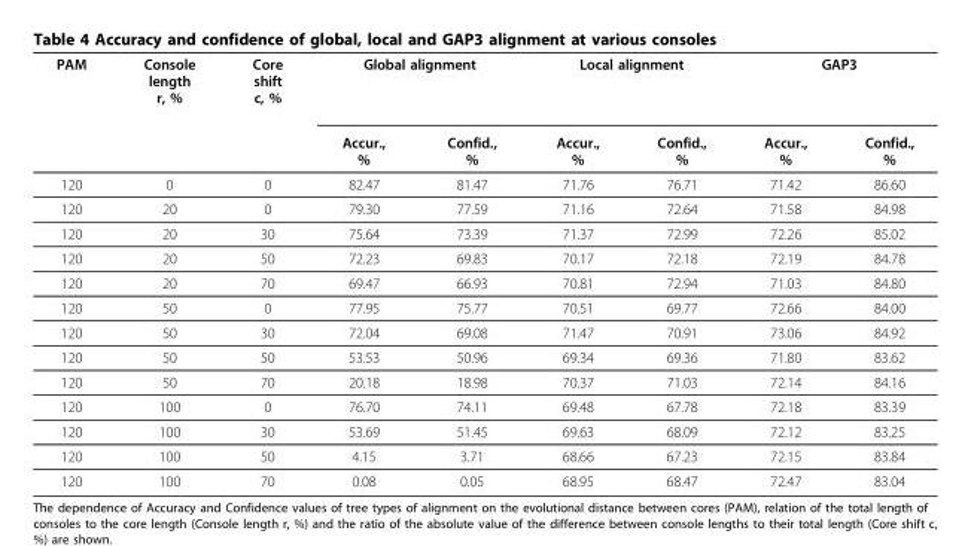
<table><thead><tr><td rowspan="2">PAM</td><td rowspan="2">Console length r, %</td><td rowspan="2">Core shift c, %</td><td colspan="2">Global alignment</td><td colspan="2">Local alignment</td><td colspan="2">GAP3</td></tr><tr><td>Accur., %</td><td>Confid., %</td><td>Accur., %</td><td>Confid., %</td><td>Accur., %</td><td>Confid., %</td></tr></thead><tbody><tr><td>120</td><td>0</td><td>0</td><td>82.47</td><td>81.47</td><td>71.76</td><td>76.71</td><td>71.42</td><td>86.60</td></tr><tr><td>120</td><td>20</td><td>0</td><td>79.30</td><td>77.59</td><td>71.16</td><td>72.64</td><td>71.58</td><td>84.98</td></tr><tr><td>120</td><td>20</td><td>30</td><td>75.64</td><td>73.39</td><td>71.37</td><td>72.99</td><td>72.26</td><td>85.02</td></tr><tr><td>120</td><td>20</td><td>50</td><td>72.23</td><td>69.83</td><td>70.17</td><td>72.18</td><td>72.19</td><td>84.78</td></tr><tr><td>120</td><td>20</td><td>70</td><td>69.47</td><td>66.93</td><td>70.81</td><td>72.94</td><td>71.03</td><td>84.80</td></tr><tr><td>120</td><td>50</td><td>0</td><td>77.95</td><td>75.77</td><td>70.51</td><td>69.77</td><td>72.66</td><td>84.00</td></tr><tr><td>120</td><td>50</td><td>30</td><td>72.04</td><td>69.08</td><td>71.47</td><td>70.91</td><td>73.06</td><td>84.92</td></tr><tr><td>120</td><td>50</td><td>50</td><td>53.53</td><td>50.96</td><td>69.34</td><td>69.36</td><td>71.80</td><td>83.62</td></tr><tr><td>120</td><td>50</td><td>70</td><td>20.18</td><td>18.98</td><td>70.37</td><td>71.03</td><td>72.14</td><td>84.16</td></tr><tr><td>120</td><td>100</td><td>0</td><td>76.70</td><td>74.11</td><td>69.48</td><td>67.78</td><td>72.18</td><td>83.39</td></tr><tr><td>120</td><td>100</td><td>30</td><td>53.69</td><td>51.45</td><td>69.63</td><td>68.09</td><td>72.12</td><td>83.25</td></tr><tr><td>120</td><td>100</td><td>50</td><td>4.15</td><td>3.71</td><td>68.66</td><td>67.23</td><td>72.15</td><td>83.84</td></tr><tr><td>120</td><td>100</td><td>70</td><td>0.08</td><td>0.05</td><td>68.95</td><td>68.47</td><td>72.47</td><td>83.04</td></tr></tbody></table>